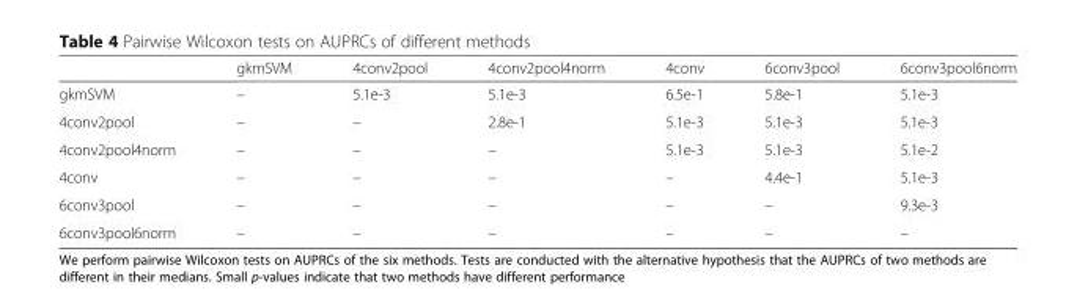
<table><thead><tr><td></td><td>gkmSVM</td><td>4conv2pool</td><td>4conv2pool4norm</td><td>4conv</td><td>6conv3pool</td><td>6conv3pool6norm</td></tr></thead><tbody><tr><td>gkmSVM</td><td>–</td><td>5.1e-3</td><td>5.1e-3</td><td>6.5e-1</td><td>5.8e-1</td><td>5.1e-3</td></tr><tr><td>4conv2pool</td><td>–</td><td>–</td><td>2.8e-1</td><td>5.1e-3</td><td>5.1e-3</td><td>5.1e-3</td></tr><tr><td>4conv2pool4norm</td><td>–</td><td>–</td><td>–</td><td>5.1e-3</td><td>5.1e-3</td><td>5.1e-2</td></tr><tr><td>4conv</td><td>–</td><td>–</td><td>–</td><td>–</td><td>4.4e-1</td><td>5.1e-3</td></tr><tr><td>6conv3pool</td><td>–</td><td>–</td><td>–</td><td>–</td><td>–</td><td>9.3e-3</td></tr><tr><td>6conv3pool6norm</td><td>–</td><td>–</td><td>–</td><td>–</td><td>–</td><td>–</td></tr></tbody></table>